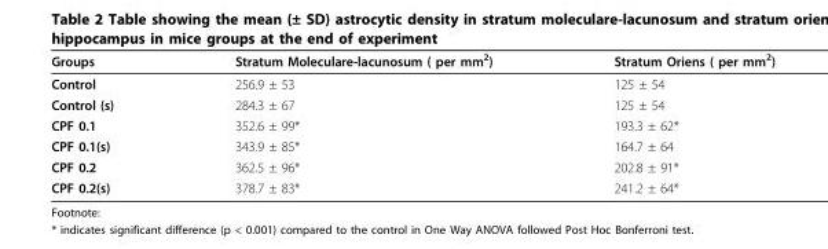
<table><thead><tr><td>Groups</td><td>Stratum Moleculare-lacunosum ( per mm<sup>2</sup>)</td><td>Stratum Oriens ( per mm<sup>2</sup>)</td></tr></thead><tbody><tr><td>Control</td><td>256.9 ± 53</td><td>125 ± 54</td></tr><tr><td>Control (s)</td><td>284.3 ± 67</td><td>125 ± 54</td></tr><tr><td>CPF 0.1</td><td>352.6 ± 99*</td><td>193.3 ± 62*</td></tr><tr><td>CPF 0.1(s)</td><td>343.9 ± 85*</td><td>164.7 ± 64</td></tr><tr><td>CPF 0.2</td><td>362.5 ± 96*</td><td>202.8 ± 91*</td></tr><tr><td>CPF 0.2(s)</td><td>378.7 ± 83*</td><td>241.2 ± 64*</td></tr></tbody></table>